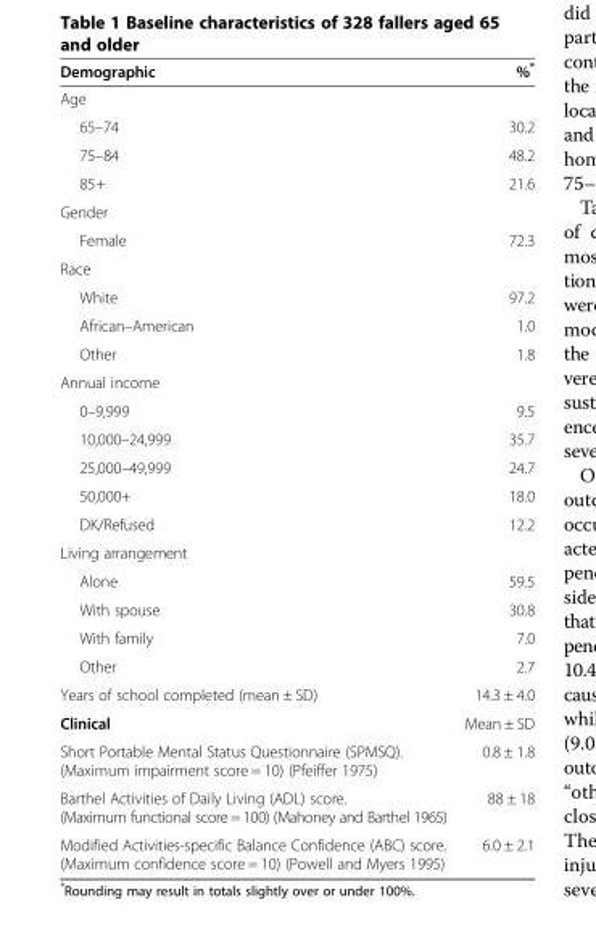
<table><thead><tr><td>Demographic</td><td>%*</td></tr></thead><tbody><tr><td colspan="2">Age</td></tr><tr><td>65–74</td><td>30.2</td></tr><tr><td>75–84</td><td>48.2</td></tr><tr><td>85+</td><td>21.6</td></tr><tr><td colspan="2">Gender</td></tr><tr><td>Female</td><td>72.3</td></tr><tr><td colspan="2">Race</td></tr><tr><td>White</td><td>97.2</td></tr><tr><td>African–American</td><td>1.0</td></tr><tr><td>Other</td><td>1.8</td></tr><tr><td colspan="2">Annual income</td></tr><tr><td>0–9,999</td><td>9.5</td></tr><tr><td>10,000–24,999</td><td>35.7</td></tr><tr><td>25,000–49,999</td><td>24.7</td></tr><tr><td>50,000+</td><td>18.0</td></tr><tr><td>DK/Refused</td><td>12.2</td></tr><tr><td colspan="2">Living arrangement</td></tr><tr><td>Alone</td><td>59.5</td></tr><tr><td>With spouse</td><td>30.8</td></tr><tr><td>With family</td><td>7.0</td></tr><tr><td>Other</td><td>2.7</td></tr><tr><td>Years of school completed (mean ± SD)</td><td>14.3 ± 4.0</td></tr><tr><td>Clinical</td><td>Mean ± SD</td></tr><tr><td>Short Portable Mental Status Questionnaire (SPMSQ). (Maximum impairment score = 10) (Pfeiffer 1975)</td><td>0.8 ± 1.8</td></tr><tr><td>Barthel Activities of Daily Living (ADL) score. (Maximum functional score = 100) (Mahoney and Barthel 1965)</td><td>88 ± 18</td></tr><tr><td>Modified Activities-specific Balance Confidence (ABC) score. (Maximum confidence score = 10) (Powell and Myers 1995)</td><td>6.0 ± 2.1</td></tr></tbody></table>